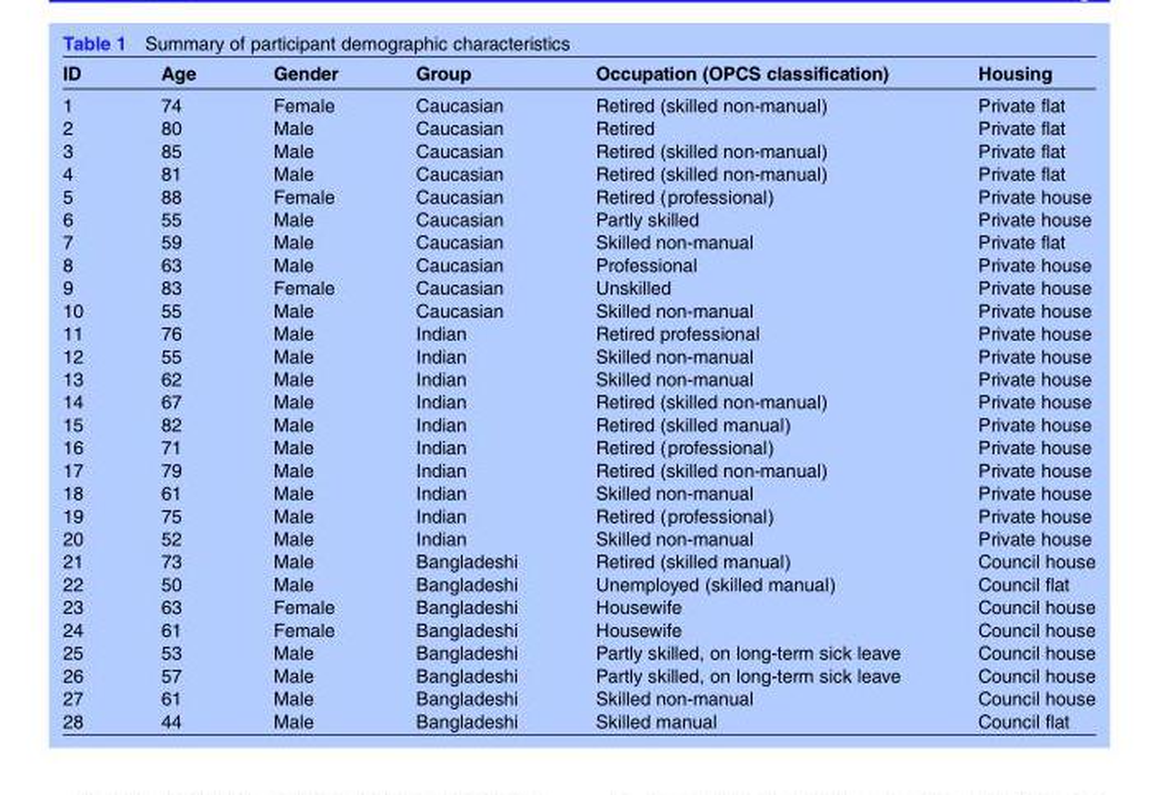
<table><thead><tr><td>ID</td><td>Age</td><td>Gender</td><td>Group</td><td>Occupation (OPCS classification)</td><td>Housing</td></tr></thead><tbody><tr><td>1</td><td>74</td><td>Female</td><td>Caucasian</td><td>Retired (skilled non-manual)</td><td>Private flat</td></tr><tr><td>2</td><td>80</td><td>Male</td><td>Caucasian</td><td>Retired</td><td>Private flat</td></tr><tr><td>3</td><td>85</td><td>Male</td><td>Caucasian</td><td>Retired (skilled non-manual)</td><td>Private flat</td></tr><tr><td>4</td><td>81</td><td>Male</td><td>Caucasian</td><td>Retired (skilled non-manual)</td><td>Private flat</td></tr><tr><td>5</td><td>88</td><td>Female</td><td>Caucasian</td><td>Retired (professional)</td><td>Private house</td></tr><tr><td>6</td><td>55</td><td>Male</td><td>Caucasian</td><td>Partly skilled</td><td>Private house</td></tr><tr><td>7</td><td>59</td><td>Male</td><td>Caucasian</td><td>Skilled non-manual</td><td>Private flat</td></tr><tr><td>8</td><td>63</td><td>Male</td><td>Caucasian</td><td>Professional</td><td>Private house</td></tr><tr><td>9</td><td>83</td><td>Female</td><td>Caucasian</td><td>Unskilled</td><td>Private house</td></tr><tr><td>10</td><td>55</td><td>Male</td><td>Caucasian</td><td>Skilled non-manual</td><td>Private house</td></tr><tr><td>11</td><td>76</td><td>Male</td><td>Indian</td><td>Retired professional</td><td>Private house</td></tr><tr><td>12</td><td>55</td><td>Male</td><td>Indian</td><td>Skilled non-manual</td><td>Private house</td></tr><tr><td>13</td><td>62</td><td>Male</td><td>Indian</td><td>Skilled non-manual</td><td>Private house</td></tr><tr><td>14</td><td>67</td><td>Male</td><td>Indian</td><td>Retired (skilled non-manual)</td><td>Private house</td></tr><tr><td>15</td><td>82</td><td>Male</td><td>Indian</td><td>Retired (skilled manual)</td><td>Private house</td></tr><tr><td>16</td><td>71</td><td>Male</td><td>Indian</td><td>Retired (professional)</td><td>Private house</td></tr><tr><td>17</td><td>79</td><td>Male</td><td>Indian</td><td>Retired (skilled non-manual)</td><td>Private house</td></tr><tr><td>18</td><td>61</td><td>Male</td><td>Indian</td><td>Skilled non-manual</td><td>Private house</td></tr><tr><td>19</td><td>75</td><td>Male</td><td>Indian</td><td>Retired (professional)</td><td>Private house</td></tr><tr><td>20</td><td>52</td><td>Male</td><td>Indian</td><td>Skilled non-manual</td><td>Private house</td></tr><tr><td>21</td><td>73</td><td>Male</td><td>Bangladeshi</td><td>Retired (skilled manual)</td><td>Council house</td></tr><tr><td>22</td><td>50</td><td>Male</td><td>Bangladeshi</td><td>Unemployed (skilled manual)</td><td>Council flat</td></tr><tr><td>23</td><td>63</td><td>Female</td><td>Bangladeshi</td><td>Housewife</td><td>Council house</td></tr><tr><td>24</td><td>61</td><td>Female</td><td>Bangladeshi</td><td>Housewife</td><td>Council house</td></tr><tr><td>25</td><td>53</td><td>Male</td><td>Bangladeshi</td><td>Partly skilled, on long-term sick leave</td><td>Council house</td></tr><tr><td>26</td><td>57</td><td>Male</td><td>Bangladeshi</td><td>Partly skilled, on long-term sick leave</td><td>Council house</td></tr><tr><td>27</td><td>61</td><td>Male</td><td>Bangladeshi</td><td>Skilled non-manual</td><td>Council house</td></tr><tr><td>28</td><td>44</td><td>Male</td><td>Bangladeshi</td><td>Skilled manual</td><td>Council flat</td></tr></tbody></table>